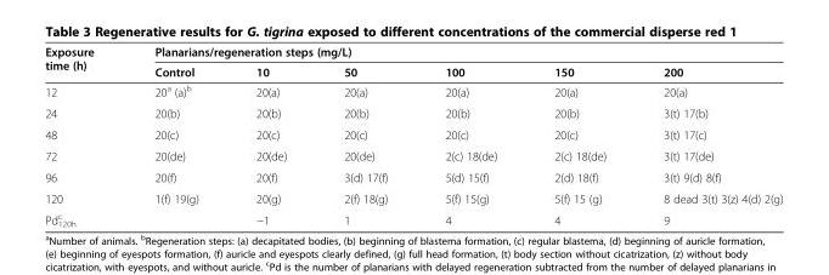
<table><thead><tr><td rowspan="2">Exposure time (h)</td><td colspan="6">Planarians/regeneration steps (mg/L)</td></tr><tr><td>Control</td><td>10</td><td>50</td><td>100</td><td>150</td><td>200</td></tr></thead><tbody><tr><td>12</td><td>20<sup>a</sup> (a)<sup>b</sup></td><td>20(a)</td><td>20(a)</td><td>20(a)</td><td>20(a)</td><td>20(a)</td></tr><tr><td>24</td><td>20(b)</td><td>20(b)</td><td>20(b)</td><td>20(b)</td><td>20(b)</td><td>3(t) 17(b)</td></tr><tr><td>48</td><td>20(c)</td><td>20(c)</td><td>20(c)</td><td>20(c)</td><td>20(c)</td><td>3(t) 17(c)</td></tr><tr><td>72</td><td>20(de)</td><td>20(de)</td><td>20(de)</td><td>2(c) 18(de)</td><td>2(c) 18(de)</td><td>3(t) 17(de)</td></tr><tr><td>96</td><td>20(f)</td><td>20(f)</td><td>3(d) 17(f)</td><td>5(d) 15(f)</td><td>2(d) 18(f)</td><td>3(t) 9(d) 8(f)</td></tr><tr><td>120</td><td>1(f) 19(g)</td><td>20(g)</td><td>2(f) 18(g)</td><td>5(f) 15(g)</td><td>5(f) 15 (g)</td><td>8 dead 3(t) 3(z) 4(d) 2(g)</td></tr><tr><td>Pd<sup>c</sup> <sub>120h</sub></td><td></td><td>−1</td><td>1</td><td>4</td><td>4</td><td>9</td></tr></tbody></table>